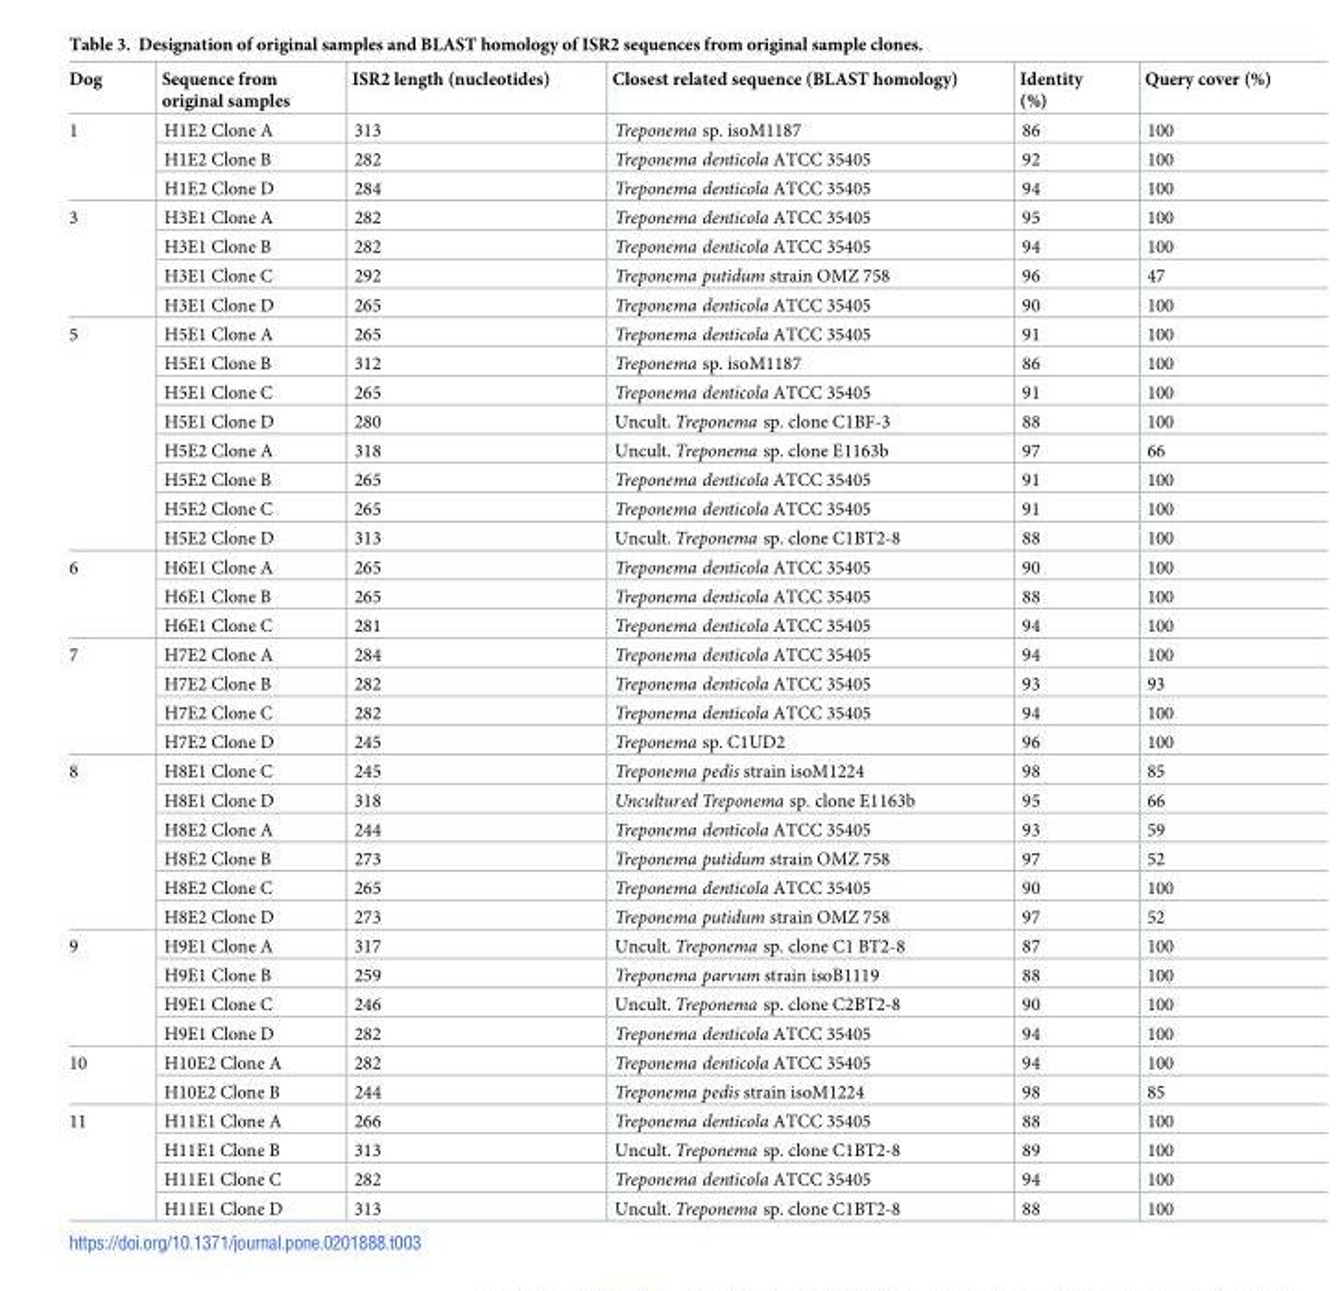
<table><thead><tr><td>Dog</td><td>Sequence from original samples</td><td>ISR2 length (nucleotides)</td><td>Closest related sequence (BLAST homology)</td><td>Identity (%)</td><td>Query cover (%)</td></tr></thead><tbody><tr><td rowspan="3">1</td><td>H1E2 Clone A</td><td>313</td><td>Treponema sp. isoM1187</td><td>86</td><td>100</td></tr><tr><td>H1E2 Clone B</td><td>282</td><td>Treponema denticola ATCC 35405</td><td>92</td><td>100</td></tr><tr><td>H1E2 Clone D</td><td>284</td><td>Treponema denticola ATCC 35405</td><td>94</td><td>100</td></tr><tr><td rowspan="4">3</td><td>H3E1 Clone A</td><td>282</td><td>Treponema denticola ATCC 35405</td><td>95</td><td>100</td></tr><tr><td>H3E1 Clone B</td><td>282</td><td>Treponema denticola ATCC 35405</td><td>94</td><td>100</td></tr><tr><td>H3E1 Clone C</td><td>292</td><td>Treponema putidum strain OMZ 758</td><td>96</td><td>47</td></tr><tr><td>H3E1 Clone D</td><td>265</td><td>Treponema denticola ATCC 35405</td><td>90</td><td>100</td></tr><tr><td rowspan="8">5</td><td>H5E1 Clone A</td><td>265</td><td>Treponema denticola ATCC 35405</td><td>91</td><td>100</td></tr><tr><td>H5E1 Clone B</td><td>312</td><td>Treponema sp. isoM1187</td><td>86</td><td>100</td></tr><tr><td>H5E1 Clone C</td><td>265</td><td>Treponema denticola ATCC 35405</td><td>91</td><td>100</td></tr><tr><td>H5E1 Clone D</td><td>280</td><td>Uncult. Treponema sp. clone C1BF-3</td><td>88</td><td>100</td></tr><tr><td>H5E2 Clone A</td><td>318</td><td>Uncult. Treponema sp. clone E1163b</td><td>97</td><td>66</td></tr><tr><td>H5E2 Clone B</td><td>265</td><td>Treponema denticola ATCC 35405</td><td>91</td><td>100</td></tr><tr><td>H5E2 Clone C</td><td>265</td><td>Treponema denticola ATCC 35405</td><td>91</td><td>100</td></tr><tr><td>H5E2 Clone D</td><td>313</td><td>Uncult. Treponema sp. clone C1BT2-8</td><td>88</td><td>100</td></tr><tr><td rowspan="3">6</td><td>H6E1 Clone A</td><td>265</td><td>Treponema denticola ATCC 35405</td><td>90</td><td>100</td></tr><tr><td>H6E1 Clone B</td><td>265</td><td>Treponema denticola ATCC 35405</td><td>88</td><td>100</td></tr><tr><td>H6E1 Clone C</td><td>281</td><td>Treponema denticola ATCC 35405</td><td>94</td><td>100</td></tr><tr><td rowspan="4">7</td><td>H7E2 Clone A</td><td>284</td><td>Treponema denticola ATCC 35405</td><td>94</td><td>100</td></tr><tr><td>H7E2 Clone B</td><td>282</td><td>Treponema denticola ATCC 35405</td><td>93</td><td>93</td></tr><tr><td>H7E2 Clone C</td><td>282</td><td>Treponema denticola ATCC 35405</td><td>94</td><td>100</td></tr><tr><td>H7E2 Clone D</td><td>245</td><td>Treponema sp. C1UD2</td><td>96</td><td>100</td></tr><tr><td rowspan="6">8</td><td>H8E1 Clone C</td><td>245</td><td>Treponema pedis strain isoM1224</td><td>98</td><td>85</td></tr><tr><td>H8E1 Clone D</td><td>318</td><td>Uncultured Treponema sp. clone E1163b</td><td>95</td><td>66</td></tr><tr><td>H8E2 Clone A</td><td>244</td><td>Treponema denticola ATCC 35405</td><td>93</td><td>59</td></tr><tr><td>H8E2 Clone B</td><td>273</td><td>Treponema putidum strain OMZ 758</td><td>97</td><td>52</td></tr><tr><td>H8E2 Clone C</td><td>265</td><td>Treponema denticola ATCC 35405</td><td>90</td><td>100</td></tr><tr><td>H8E2 Clone D</td><td>273</td><td>Treponema putidum strain OMZ 758</td><td>97</td><td>52</td></tr><tr><td rowspan="4">9</td><td>H9E1 Clone A</td><td>317</td><td>Uncult. Treponema sp. clone C1 BT2-8</td><td>87</td><td>100</td></tr><tr><td>H9E1 Clone B</td><td>259</td><td>Treponema parvum strain isoB1119</td><td>88</td><td>100</td></tr><tr><td>H9E1 Clone C</td><td>246</td><td>Uncult. Treponema sp. clone C2BT2-8</td><td>90</td><td>100</td></tr><tr><td>H9E1 Clone D</td><td>282</td><td>Treponema denticola ATCC 35405</td><td>94</td><td>100</td></tr><tr><td rowspan="2">10</td><td>H10E2 Clone A</td><td>282</td><td>Treponema denticola ATCC 35405</td><td>94</td><td>100</td></tr><tr><td>H10E2 Clone B</td><td>244</td><td>Treponema pedis strain isoM1224</td><td>98</td><td>85</td></tr><tr><td rowspan="4">11</td><td>H11E1 Clone A</td><td>266</td><td>Treponema denticola ATCC 35405</td><td>88</td><td>100</td></tr><tr><td>H11E1 Clone B</td><td>313</td><td>Uncult. Treponema sp. clone C1BT2-8</td><td>89</td><td>100</td></tr><tr><td>H11E1 Clone C</td><td>282</td><td>Treponema denticola ATCC 35405</td><td>94</td><td>100</td></tr><tr><td>H11E1 Clone D</td><td>313</td><td>Uncult. Treponema sp. clone C1BT2-8</td><td>88</td><td>100</td></tr></tbody></table>